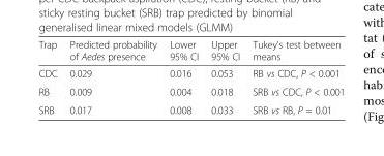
<table><thead><tr><td>Trap</td><td>Predicted probability of Aedes presence</td><td>Lower 95% CI</td><td>Upper 95% CI</td><td>Tukey’s test between means</td></tr></thead><tbody><tr><td>CDC</td><td>0.029</td><td>0.016</td><td>0.053</td><td>RB vs CDC, P &lt; 0.001</td></tr><tr><td>RB</td><td>0.009</td><td>0.004</td><td>0.018</td><td>SRB vs CDC, P &lt; 0.001</td></tr><tr><td>SRB</td><td>0.017</td><td>0.008</td><td>0.033</td><td>SRB vs RB, P = 0.01</td></tr></tbody></table>